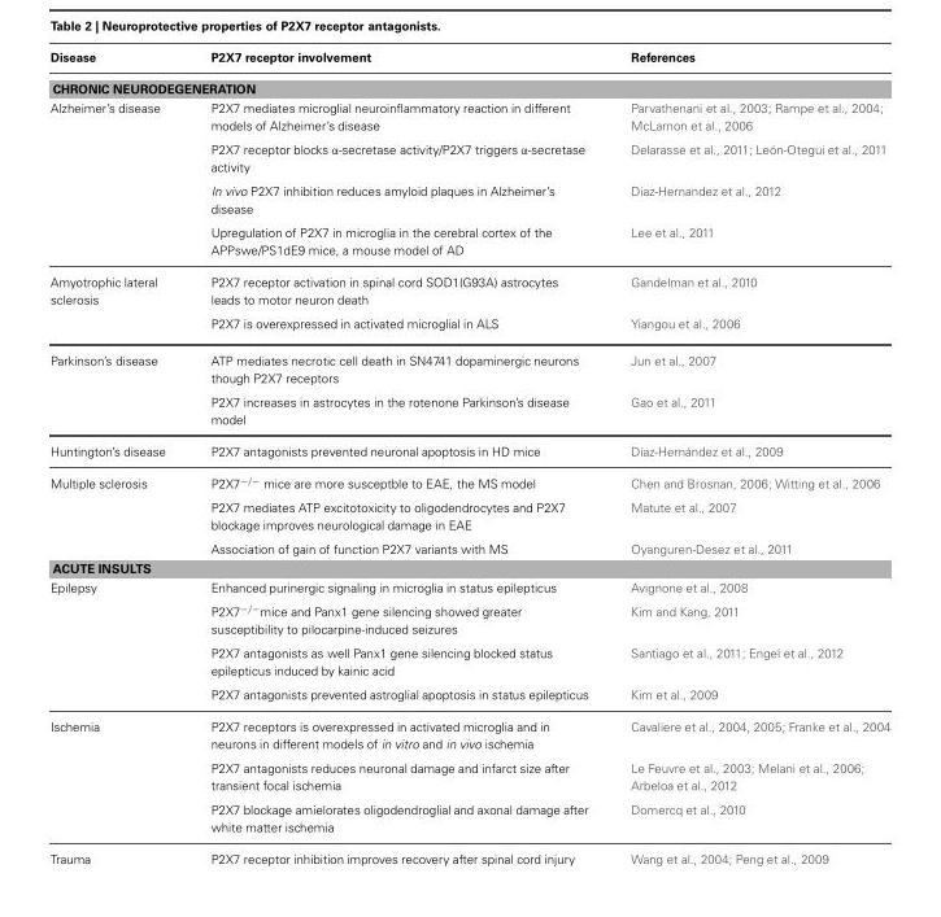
<table><thead><tr><td>Disease</td><td>P2X7 receptor involvement</td><td>References</td></tr></thead><tbody><tr><td colspan="3">CHRONIC NEURODEGENERATION</td></tr><tr><td rowspan="4">Alzheimer’s disease</td><td>P2X7 mediates microglial neuroinflammatory reaction in different models of Alzheimer’s disease</td><td>Parvathenani et al., 2003; Rampe et al., 2004; McLarnon et al., 2006</td></tr><tr><td>P2X7 receptor blocks α-secretase activity/P2X7 triggers α-secretase activity</td><td>Delarasse et al., 2011; León-Otegui et al., 2011</td></tr><tr><td>In vivo P2X7 inhibition reduces amyloid plaques in Alzheimer’s disease</td><td>Diaz-Hernandez et al., 2012</td></tr><tr><td>Upregulation of P2X7 in microglia in the cerebral cortex of the APPswe/PS1dE9 mice, a mouse model of AD</td><td>Lee et al., 2011</td></tr><tr><td rowspan="2">Amyotrophic lateral sclerosis</td><td>P2X7 receptor activation in spinal cord SOD1(G93A) astrocytes leads to motor neuron death</td><td>Gandelman et al., 2010</td></tr><tr><td>P2X7 is overexpressed in activated microglial in ALS</td><td>Yiangou et al., 2006</td></tr><tr><td rowspan="2">Parkinson’s disease</td><td>ATP mediates necrotic cell death in SN4741 dopaminergic neurons though P2X7 receptors</td><td>Jun et al., 2007</td></tr><tr><td>P2X7 increases in astrocytes in the rotenone Parkinson’s disease model</td><td>Gao et al., 2011</td></tr><tr><td>Huntington’s disease</td><td>P2X7 antagonists prevented neuronal apoptosis in HD mice</td><td>Díaz-Hernández et al., 2009</td></tr><tr><td rowspan="3">Multiple sclerosis</td><td>P2X7<sup>−/−</sup> mice are more susceptble to EAE, the MS model</td><td>Chen and Brosnan, 2006; Witting et al., 2006</td></tr><tr><td>P2X7 mediates ATP excitotoxicity to oligodendrocytes and P2X7 blockage improves neurological damage in EAE</td><td>Matute et al., 2007</td></tr><tr><td>Association of gain of function P2X7 variants with MS</td><td>Oyanguren-Desez et al., 2011</td></tr><tr><td colspan="3">ACUTE INSULTS</td></tr><tr><td rowspan="4">Epilepsy</td><td>Enhanced purinergic signaling in microglia in status epilepticus</td><td>Avignone et al., 2008</td></tr><tr><td>P2X7<sup>−/−</sup>mice and Panx1 gene silencing showed greater susceptibility to pilocarpine-induced seizures</td><td>Kim and Kang, 2011</td></tr><tr><td>P2X7 antagonists as well Panx1 gene silencing blocked status epilepticus induced by kainic acid</td><td>Santiago et al., 2011; Engel et al., 2012</td></tr><tr><td>P2X7 antagonists prevented astroglial apoptosis in status epilepticus</td><td>Kim et al., 2009</td></tr><tr><td rowspan="3">Ischemia</td><td>P2X7 receptors is overexpressed in activated microglia and in neurons in different models of in vitro and in vivo ischemia</td><td>Cavaliere et al., 2004, 2005; Franke et al., 2004</td></tr><tr><td>P2X7 antagonists reduces neuronal damage and infarct size after transient focal ischemia</td><td>Le Feuvre et al., 2003; Melani et al., 2006; Arbeloa et al., 2012</td></tr><tr><td>P2X7 blockage amielorates oligodendroglial and axonal damage after white matter ischemia</td><td>Domercq et al., 2010</td></tr><tr><td>Trauma</td><td>P2X7 receptor inhibition improves recovery after spinal cord injury</td><td>Wang et al., 2004; Peng et al., 2009</td></tr></tbody></table>